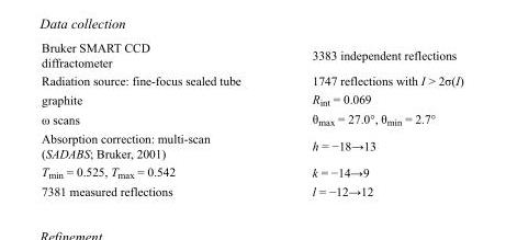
<table><tbody><tr><td>Bruker SMART CCD diffractometer</td><td>3383 independent reflections</td></tr><tr><td>Radiation source: fine-focus sealed tube</td><td>1747 reflections with I &gt; 2σ(I)</td></tr><tr><td>graphite</td><td>R<sub>int</sub> = 0.069</td></tr><tr><td>ω scans</td><td>θ<sub>max</sub> = 27.0°, θ<sub>min</sub> = 2.7°</td></tr><tr><td>Absorption correction: multi-scan (SADABS; Bruker, 2001)</td><td>h = −18→13</td></tr><tr><td>T<sub>min</sub> = 0.525, T<sub>max</sub> = 0.542</td><td>k = −14→9</td></tr><tr><td>7381 measured reflections</td><td>l = −12→12</td></tr></tbody></table>